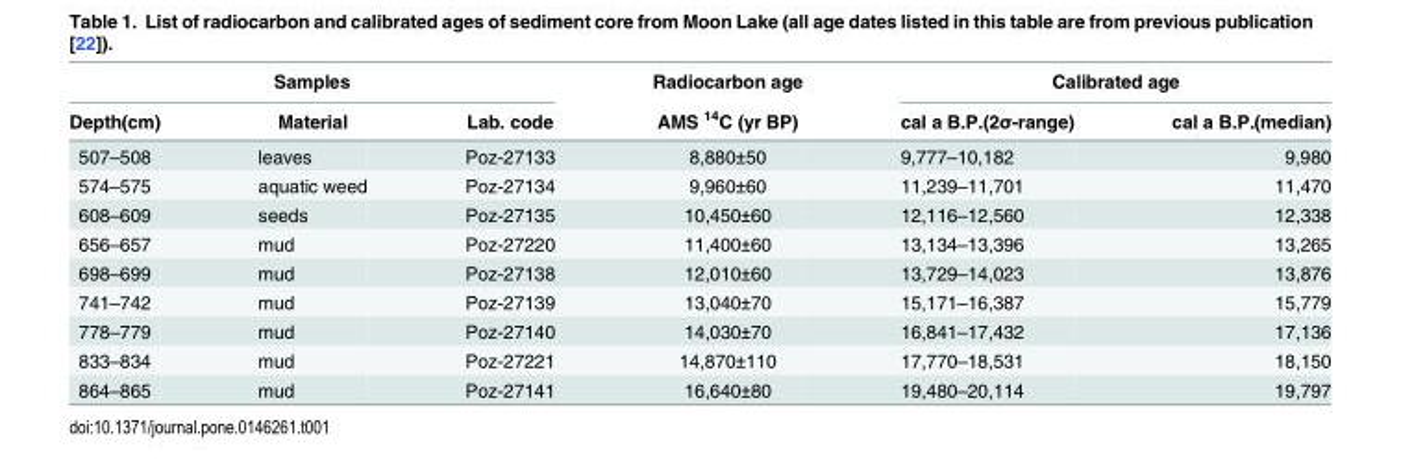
<table><thead><tr><td colspan="3">Samples</td><td rowspan="2">Radiocarbon age AMS <sup>14</sup>C (yr BP)</td><td colspan="2">Calibrated age</td></tr><tr><td>Depth(cm)</td><td>Material</td><td>Lab. code</td><td>cal a B.P.(2σ-range)</td><td>cal a B.P.(median)</td></tr></thead><tbody><tr><td>507–508</td><td>leaves</td><td>Poz-27133</td><td>8,880±50</td><td>9,777–10,182</td><td>9,980</td></tr><tr><td>574–575</td><td>aquatic weed</td><td>Poz-27134</td><td>9,960±60</td><td>11,239–11,701</td><td>11,470</td></tr><tr><td>608–609</td><td>seeds</td><td>Poz-27135</td><td>10,450±60</td><td>12,116–12,560</td><td>12,338</td></tr><tr><td>656–657</td><td>mud</td><td>Poz-27220</td><td>11,400±60</td><td>13,134–13,396</td><td>13,265</td></tr><tr><td>698–699</td><td>mud</td><td>Poz-27138</td><td>12,010±60</td><td>13,729–14,023</td><td>13,876</td></tr><tr><td>741–742</td><td>mud</td><td>Poz-27139</td><td>13,040±70</td><td>15,171–16,387</td><td>15,779</td></tr><tr><td>778–779</td><td>mud</td><td>Poz-27140</td><td>14,030±70</td><td>16,841–17,432</td><td>17,136</td></tr><tr><td>833–834</td><td>mud</td><td>Poz-27221</td><td>14,870±110</td><td>17,770–18,531</td><td>18,150</td></tr><tr><td>864–865</td><td>mud</td><td>Poz-27141</td><td>16,640±80</td><td>19,480–20,114</td><td>19,797</td></tr></tbody></table>